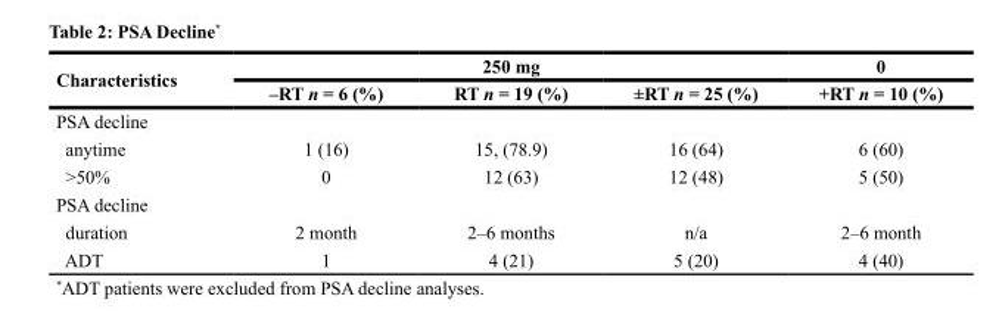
<table><thead><tr><td rowspan="2">Characteristics</td><td colspan="3">250 mg</td><td rowspan="2">0 +RT n = 10 (%)</td></tr><tr><td>–RT n = 6 (%)</td><td>RT n = 19 (%)</td><td>±RT n = 25 (%)</td></tr></thead><tbody><tr><td colspan="5">PSA decline</td></tr><tr><td>anytime</td><td>1 (16)</td><td>15, (78.9)</td><td>16 (64)</td><td>6 (60)</td></tr><tr><td>&gt;50%</td><td>0</td><td>12 (63)</td><td>12 (48)</td><td>5 (50)</td></tr><tr><td colspan="5">PSA decline</td></tr><tr><td>duration</td><td>2 month</td><td>2–6 months</td><td>n/a</td><td>2–6 month</td></tr><tr><td>ADT</td><td>1</td><td>4 (21)</td><td>5 (20)</td><td>4 (40)</td></tr></tbody></table>